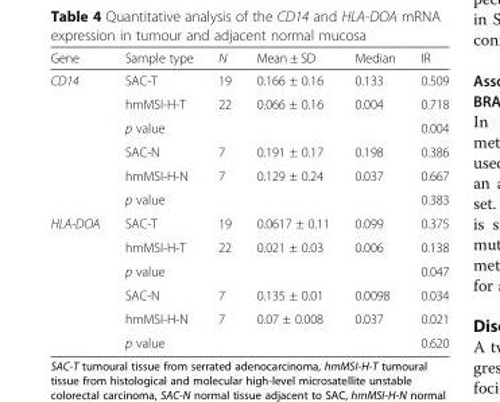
<table><thead><tr><td>Gene</td><td>Sample type</td><td>N</td><td>Mean ± SD</td><td>Median</td><td>IR</td></tr></thead><tbody><tr><td rowspan="6">CD14</td><td>SAC-T</td><td>19</td><td>0.166 ± 0.16</td><td>0.133</td><td>0.509</td></tr><tr><td>hmMSI-H-T</td><td>22</td><td>0.066 ± 0.16</td><td>0.004</td><td>0.718</td></tr><tr><td>p value</td><td></td><td></td><td></td><td>0.004</td></tr><tr><td>SAC-N</td><td>7</td><td>0.191 ± 0.17</td><td>0.198</td><td>0.386</td></tr><tr><td>hmMSI-H-N</td><td>7</td><td>0.129 ± 0.24</td><td>0.037</td><td>0.667</td></tr><tr><td>p value</td><td></td><td></td><td></td><td>0.383</td></tr><tr><td rowspan="6">HLA-DOA</td><td>SAC-T</td><td>19</td><td>0.0617 ± 0.11</td><td>0.099</td><td>0.375</td></tr><tr><td>hmMSI-H-T</td><td>22</td><td>0.021 ± 0.03</td><td>0.006</td><td>0.138</td></tr><tr><td>p value</td><td></td><td></td><td></td><td>0.047</td></tr><tr><td>SAC-N</td><td>7</td><td>0.135 ± 0.01</td><td>0.0098</td><td>0.034</td></tr><tr><td>hmMSI-H-N</td><td>7</td><td>0.07 ± 0.008</td><td>0.037</td><td>0.021</td></tr><tr><td>p value</td><td></td><td></td><td></td><td>0.620</td></tr></tbody></table>